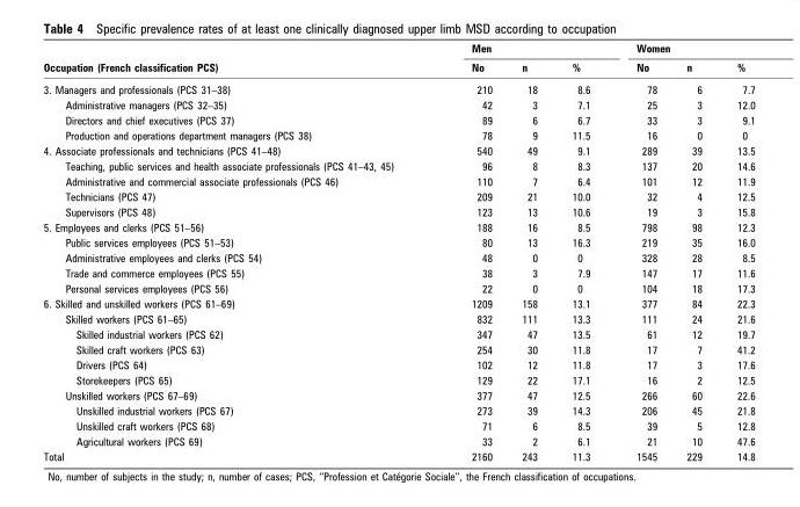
<table><thead><tr><td rowspan="2">Occupation (French classification PCS)</td><td colspan="3">Men</td><td colspan="3">Women</td></tr><tr><td>No</td><td>n</td><td>%</td><td>No</td><td>n</td><td>%</td></tr></thead><tbody><tr><td>3. Managers and professionals (PCS 31–38)</td><td>210</td><td>18</td><td>8.6</td><td>78</td><td>6</td><td>7.7</td></tr><tr><td>Administrative managers (PCS 32–35)</td><td>42</td><td>3</td><td>7.1</td><td>25</td><td>3</td><td>12.0</td></tr><tr><td>Directors and chief executives (PCS 37)</td><td>89</td><td>6</td><td>6.7</td><td>33</td><td>3</td><td>9.1</td></tr><tr><td>Production and operations department managers (PCS 38)</td><td>78</td><td>9</td><td>11.5</td><td>16</td><td>0</td><td>0</td></tr><tr><td>4. Associate professionals and technicians (PCS 41–48)</td><td>540</td><td>49</td><td>9.1</td><td>289</td><td>39</td><td>13.5</td></tr><tr><td>Teaching, public services and health associate professionals (PCS 41–43, 45)</td><td>96</td><td>8</td><td>8.3</td><td>137</td><td>20</td><td>14.6</td></tr><tr><td>Administrative and commercial associate professionals (PCS 46)</td><td>110</td><td>7</td><td>6.4</td><td>101</td><td>12</td><td>11.9</td></tr><tr><td>Technicians (PCS 47)</td><td>209</td><td>21</td><td>10.0</td><td>32</td><td>4</td><td>12.5</td></tr><tr><td>Supervisors (PCS 48)</td><td>123</td><td>13</td><td>10.6</td><td>19</td><td>3</td><td>15.8</td></tr><tr><td>5. Employees and clerks (PCS 51–56)</td><td>188</td><td>16</td><td>8.5</td><td>798</td><td>98</td><td>12.3</td></tr><tr><td>Public services employees (PCS 51–53)</td><td>80</td><td>13</td><td>16.3</td><td>219</td><td>35</td><td>16.0</td></tr><tr><td>Administrative employees and clerks (PCS 54)</td><td>48</td><td>0</td><td>0</td><td>328</td><td>28</td><td>8.5</td></tr><tr><td>Trade and commerce employees (PCS 55)</td><td>38</td><td>3</td><td>7.9</td><td>147</td><td>17</td><td>11.6</td></tr><tr><td>Personal services employees (PCS 56)</td><td>22</td><td>0</td><td>0</td><td>104</td><td>18</td><td>17.3</td></tr><tr><td>6. Skilled and unskilled workers (PCS 61–69)</td><td>1209</td><td>158</td><td>13.1</td><td>377</td><td>84</td><td>22.3</td></tr><tr><td>Skilled workers (PCS 61–65)</td><td>832</td><td>111</td><td>13.3</td><td>111</td><td>24</td><td>21.6</td></tr><tr><td>Skilled industrial workers (PCS 62)</td><td>347</td><td>47</td><td>13.5</td><td>61</td><td>12</td><td>19.7</td></tr><tr><td>Skilled craft workers (PCS 63)</td><td>254</td><td>30</td><td>11.8</td><td>17</td><td>7</td><td>41.2</td></tr><tr><td>Drivers (PCS 64)</td><td>102</td><td>12</td><td>11.8</td><td>17</td><td>3</td><td>17.6</td></tr><tr><td>Storekeepers (PCS 65)</td><td>129</td><td>22</td><td>17.1</td><td>16</td><td>2</td><td>12.5</td></tr><tr><td>Unskilled workers (PCS 67–69)</td><td>377</td><td>47</td><td>12.5</td><td>266</td><td>60</td><td>22.6</td></tr><tr><td>Unskilled industrial workers (PCS 67)</td><td>273</td><td>39</td><td>14.3</td><td>206</td><td>45</td><td>21.8</td></tr><tr><td>Unskilled craft workers (PCS 68)</td><td>71</td><td>6</td><td>8.5</td><td>39</td><td>5</td><td>12.8</td></tr><tr><td>Agricultural workers (PCS 69)</td><td>33</td><td>2</td><td>6.1</td><td>21</td><td>10</td><td>47.6</td></tr><tr><td>Total</td><td>2160</td><td>243</td><td>11.3</td><td>1545</td><td>229</td><td>14.8</td></tr></tbody></table>